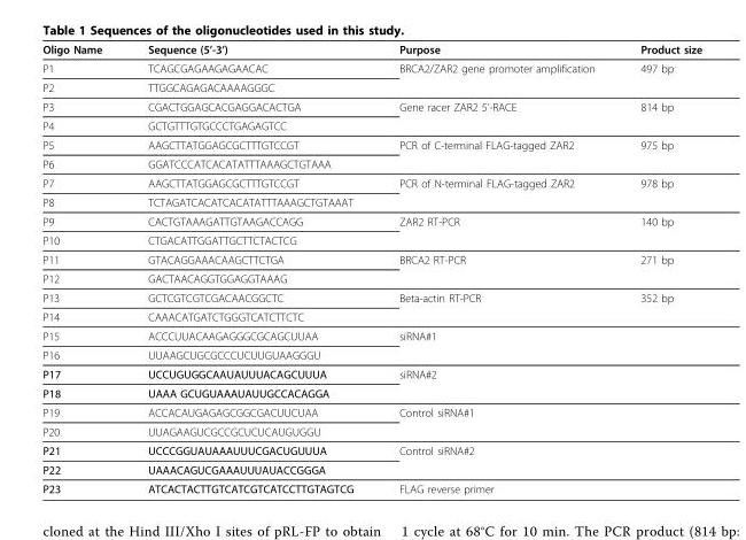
<table><thead><tr><td>Oligo Name</td><td>Sequence (5’-3’)</td><td>Purpose</td><td>Product size</td></tr></thead><tbody><tr><td>P1</td><td>TCAGCGAGAAGAGAACAC</td><td>BRCA2/ZAR2 gene promoter amplification</td><td>497 bp</td></tr><tr><td>P2</td><td>TTGGCAGAGACAAAAGGGC</td><td></td><td></td></tr><tr><td>P3</td><td>CGACTGGAGCACGAGGACACTGA</td><td>Gene racer ZAR2 5’-RACE</td><td>814 bp</td></tr><tr><td>P4</td><td>GCTGTTTGTGCCCTGAGAGTCC</td><td></td><td></td></tr><tr><td>P5</td><td>AAGCTTATGGAGCGCTTTGTCCGT</td><td>PCR of C-terminal FLAG-tagged ZAR2</td><td>975 bp</td></tr><tr><td>P6</td><td>GGATCCCATCACATATTTAAAGCTGTAAA</td><td></td><td></td></tr><tr><td>P7</td><td>AAGCTTATGGAGCGCTTTGTCCGT</td><td>PCR of N-terminal FLAG-tagged ZAR2</td><td>978 bp</td></tr><tr><td>P8</td><td>TCTAGATCACATCACATATTTAAAGCTGTAAAT</td><td></td><td></td></tr><tr><td>P9</td><td>CACTGTAAAGATTGTAAGACCAGG</td><td>ZAR2 RT-PCR</td><td>140 bp</td></tr><tr><td>P10</td><td>CTGACATTGGATTGCTTCTACTCG</td><td></td><td></td></tr><tr><td>P11</td><td>GTACAGGAAACAAGCTTCTGA</td><td>BRCA2 RT-PCR</td><td>271 bp</td></tr><tr><td>P12</td><td>GACTAACAGGTGGAGGTAAAG</td><td></td><td></td></tr><tr><td>P13</td><td>GCTCGTCGTCGACAACGGCTC</td><td>Beta-actin RT-PCR</td><td>352 bp</td></tr><tr><td>P14</td><td>CAAACATGATCTGGGTCATCTTCTC</td><td></td><td></td></tr><tr><td>P15</td><td>ACCCUUACAAGAGGGCGCAGCUUAA</td><td>siRNA#1</td><td></td></tr><tr><td>P16</td><td>UUAAGCUGCGCCCUCUUGUAAGGGU</td><td></td><td></td></tr><tr><td>P17</td><td>UCCUGUGGCAAUAUUUACAGCUUUA</td><td>siRNA#2</td><td></td></tr><tr><td>P18</td><td>UAAA GCUGUAAAUAUUGCCACAGGA</td><td></td><td></td></tr><tr><td>P19</td><td>ACCACAUGAGAGCGGCGACUUCUAA</td><td>Control siRNA#1</td><td></td></tr><tr><td>P20</td><td>UUAGAAGUCGCCGCUCUCAUGUGGU</td><td></td><td></td></tr><tr><td>P21</td><td>UCCCGGUAUAAAUUUCGACUGUUUA</td><td>Control siRNA#2</td><td></td></tr><tr><td>P22</td><td>UAAACAGUCGAAAUUUAUACCGGGA</td><td></td><td></td></tr><tr><td>P23</td><td>ATCACTACTTGTCATCGTCATCCTTGTAGTCG</td><td>FLAG reverse primer</td><td></td></tr></tbody></table>